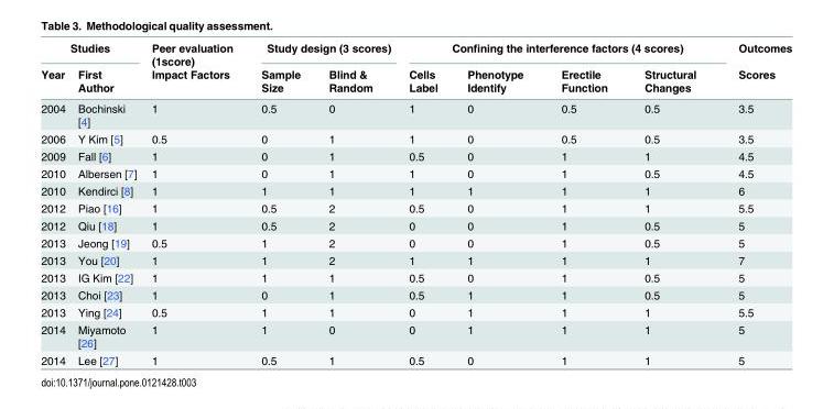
<table><thead><tr><td colspan="2">Studies</td><td rowspan="2">Peer evaluation (1score) Impact Factors</td><td colspan="2">Study design (3 scores)</td><td colspan="4">Confining the interference factors (4 scores)</td><td rowspan="2">Outcomes Scores</td></tr><tr><td>Year</td><td>First Author</td><td>Sample Size</td><td>Blind &amp; Random</td><td>Cells Label</td><td>Phenotype Identify</td><td>Erectile Function</td><td>Structural Changes</td></tr></thead><tbody><tr><td>2004</td><td>Bochinski [4]</td><td>1</td><td>0.5</td><td>0</td><td>1</td><td>0</td><td>0.5</td><td>0.5</td><td>3.5</td></tr><tr><td>2006</td><td>Y Kim [5]</td><td>0.5</td><td>0</td><td>1</td><td>1</td><td>0</td><td>0.5</td><td>0.5</td><td>3.5</td></tr><tr><td>2009</td><td>Fall [6]</td><td>1</td><td>0</td><td>1</td><td>0.5</td><td>0</td><td>1</td><td>1</td><td>4.5</td></tr><tr><td>2010</td><td>Albersen [7]</td><td>1</td><td>0</td><td>1</td><td>1</td><td>0</td><td>1</td><td>0.5</td><td>4.5</td></tr><tr><td>2010</td><td>Kendirci [8]</td><td>1</td><td>1</td><td>1</td><td>1</td><td>1</td><td>1</td><td>1</td><td>6</td></tr><tr><td>2012</td><td>Piao [16]</td><td>1</td><td>0.5</td><td>2</td><td>0.5</td><td>0</td><td>1</td><td>1</td><td>5.5</td></tr><tr><td>2012</td><td>Qiu [18]</td><td>1</td><td>0.5</td><td>2</td><td>0</td><td>0</td><td>1</td><td>0.5</td><td>5</td></tr><tr><td>2013</td><td>Jeong [19]</td><td>0.5</td><td>1</td><td>2</td><td>0</td><td>0</td><td>1</td><td>0.5</td><td>5</td></tr><tr><td>2013</td><td>You [20]</td><td>1</td><td>1</td><td>2</td><td>1</td><td>1</td><td>1</td><td>1</td><td>7</td></tr><tr><td>2013</td><td>IG Kim [22]</td><td>1</td><td>1</td><td>1</td><td>0.5</td><td>0</td><td>1</td><td>0.5</td><td>5</td></tr><tr><td>2013</td><td>Choi [23]</td><td>1</td><td>0</td><td>1</td><td>0.5</td><td>1</td><td>1</td><td>0.5</td><td>5</td></tr><tr><td>2013</td><td>Ying [24]</td><td>0.5</td><td>1</td><td>1</td><td>0</td><td>1</td><td>1</td><td>1</td><td>5.5</td></tr><tr><td>2014</td><td>Miyamoto [26]</td><td>1</td><td>1</td><td>0</td><td>0</td><td>1</td><td>1</td><td>1</td><td>5</td></tr><tr><td>2014</td><td>Lee [27]</td><td>1</td><td>0.5</td><td>1</td><td>0.5</td><td>0</td><td>1</td><td>1</td><td>5</td></tr></tbody></table>